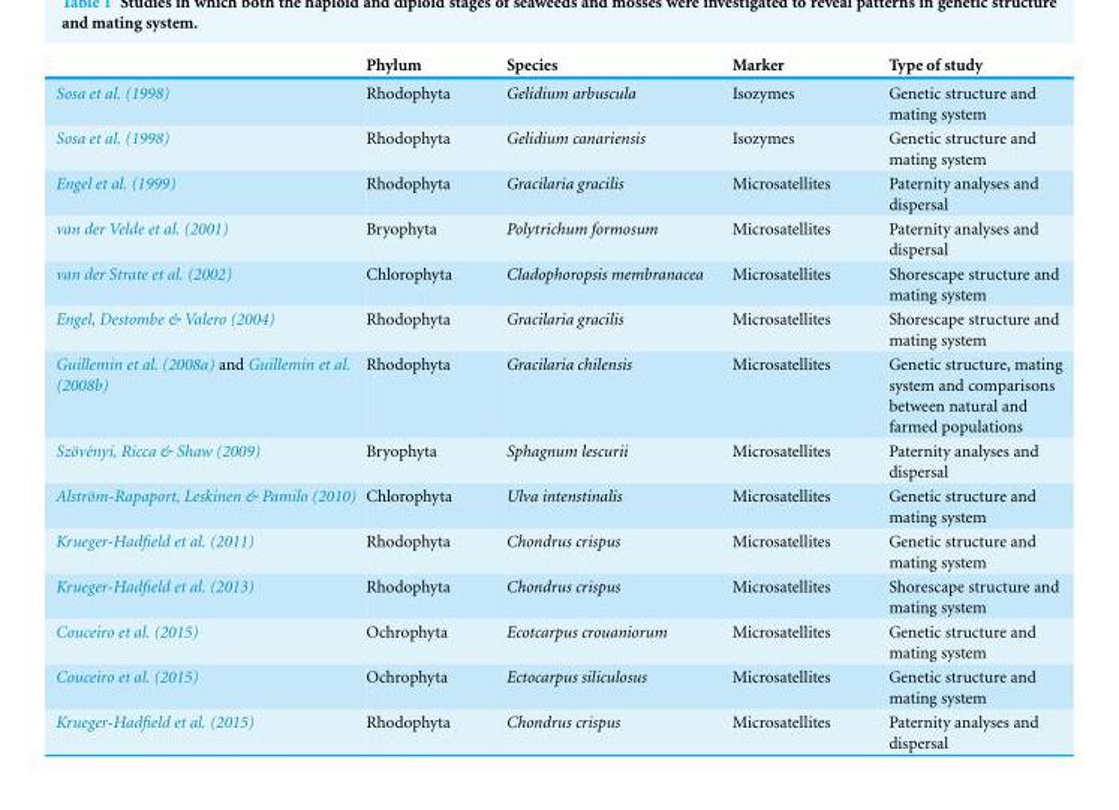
<table><thead><tr><td></td><td>Phylum</td><td>Species</td><td>Marker</td><td>Type of study</td></tr></thead><tbody><tr><td>Sosa et al. (1998)</td><td>Rhodophyta</td><td>Gelidium arbuscula</td><td>Isozymes</td><td>Genetic structure and mating system</td></tr><tr><td>Sosa et al. (1998)</td><td>Rhodophyta</td><td>Gelidium canariensis</td><td>Isozymes</td><td>Genetic structure and mating system</td></tr><tr><td>Engel et al. (1999)</td><td>Rhodophyta</td><td>Gracilaria gracilis</td><td>Microsatellites</td><td>Paternity analyses and dispersal</td></tr><tr><td>van der Velde et al. (2001)</td><td>Bryophyta</td><td>Polytrichum formosum</td><td>Microsatellites</td><td>Paternity analyses and dispersal</td></tr><tr><td>van der Strate et al. (2002)</td><td>Chlorophyta</td><td>Cladophoropsis membranacea</td><td>Microsatellites</td><td>Shorescape structure and mating system</td></tr><tr><td>Engel, Destombe &amp; Valero (2004)</td><td>Rhodophyta</td><td>Gracilaria gracilis</td><td>Microsatellites</td><td>Shorescape structure and mating system</td></tr><tr><td>Guillemin et al. (2008a) and Guillemin et al. (2008b)</td><td>Rhodophyta</td><td>Gracilaria chilensis</td><td>Microsatellites</td><td>Genetic structure, mating system and comparisons between natural and farmed populations</td></tr><tr><td>Sz¨ov´enyi, Ricca &amp; Shaw (2009)</td><td>Bryophyta</td><td>Sphagnum lescurii</td><td>Microsatellites</td><td>Paternity analyses and dispersal</td></tr><tr><td>Alstr¨om-Rapaport, Leskinen &amp; Pamilo (2010)</td><td>Chlorophyta</td><td>Ulva intenstinalis</td><td>Microsatellites</td><td>Genetic structure and mating system</td></tr><tr><td>Krueger-Hadfield et al. (2011)</td><td>Rhodophyta</td><td>Chondrus crispus</td><td>Microsatellites</td><td>Genetic structure and mating system</td></tr><tr><td>Krueger-Hadfield et al. (2013)</td><td>Rhodophyta</td><td>Chondrus crispus</td><td>Microsatellites</td><td>Shorescape structure and mating system</td></tr><tr><td>Couceiro et al. (2015)</td><td>Ochrophyta</td><td>Ecotcarpus crouaniorum</td><td>Microsatellites</td><td>Genetic structure and mating system</td></tr><tr><td>Couceiro et al. (2015)</td><td>Ochrophyta</td><td>Ectocarpus siliculosus</td><td>Microsatellites</td><td>Genetic structure and mating system</td></tr><tr><td>Krueger-Hadfield et al. (2015)</td><td>Rhodophyta</td><td>Chondrus crispus</td><td>Microsatellites</td><td>Paternity analyses and dispersal</td></tr></tbody></table>